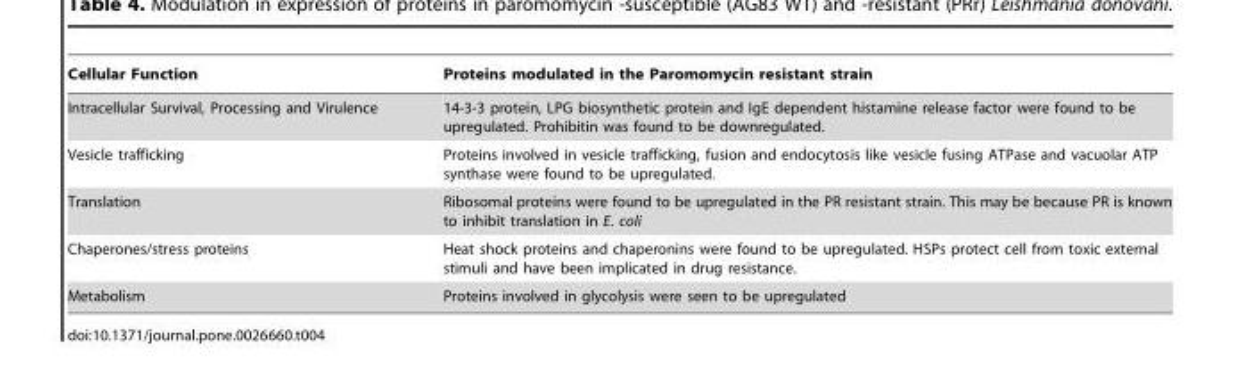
<table><thead><tr><td>Cellular Function</td><td>Proteins modulated in the Paromomycin resistant strain</td></tr></thead><tbody><tr><td>Intracellular Survival, Processing and Virulence</td><td>14-3-3 protein, LPG biosynthetic protein and IgE dependent histamine release factor were found to be upregulated. Prohibitin was found to be downregulated.</td></tr><tr><td>Vesicle trafficking</td><td>Proteins involved in vesicle trafficking, fusion and endocytosis like vesicle fusing ATPase and vacuolar ATP synthase were found to be upregulated.</td></tr><tr><td>Translation</td><td>Ribosomal proteins were found to be upregulated in the PR resistant strain. This may be because PR is known to inhibit translation in E. coli</td></tr><tr><td>Chaperones/stress proteins</td><td>Heat shock proteins and chaperonins were found to be upregulated. HSPs protect cell from toxic external stimuli and have been implicated in drug resistance.</td></tr><tr><td>Metabolism</td><td>Proteins involved in glycolysis were seen to be upregulated</td></tr></tbody></table>